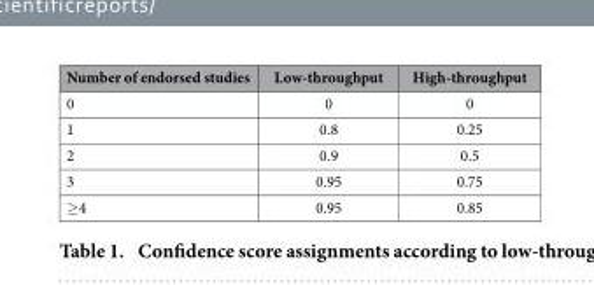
<table><thead><tr><td>Number of endorsed studies</td><td>Low-throughput</td><td>High-throughput</td></tr></thead><tbody><tr><td>0</td><td>0</td><td>0</td></tr><tr><td>1</td><td>0.8</td><td>0.25</td></tr><tr><td>2</td><td>0.9</td><td>0.5</td></tr><tr><td>3</td><td>0.95</td><td>0.75</td></tr><tr><td>≥ 4</td><td>0.95</td><td>0.85</td></tr></tbody></table>